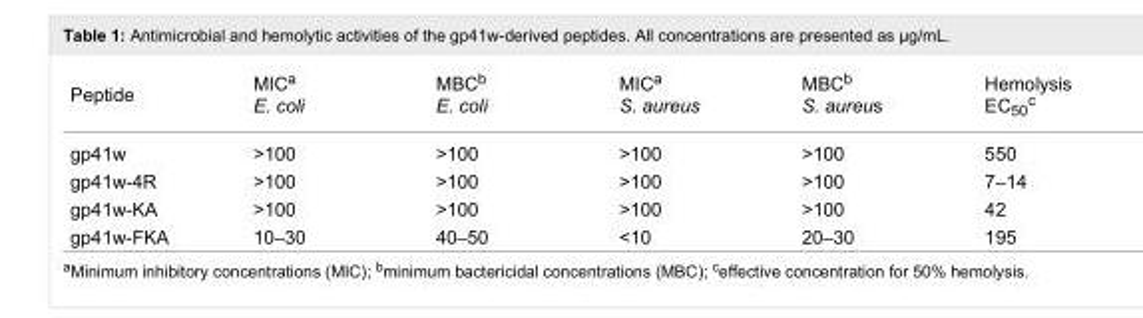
<table><tbody><tr><td>Peptide</td><td>MIC<sup>a</sup> E. coli</td><td>MBC<sup>b</sup> E. coli</td><td>MIC<sup>a</sup> S. aureus</td><td>MBC<sup>b</sup> S. aureus</td><td>Hemolysis EC<sub>50</sub><sup>c</sup></td></tr><tr><td>gp41w</td><td>&gt;100</td><td>&gt;100</td><td>&gt;100</td><td>&gt;100</td><td>550</td></tr><tr><td>gp41w-4R</td><td>&gt;100</td><td>&gt;100</td><td>&gt;100</td><td>&gt;100</td><td>7–14</td></tr><tr><td>gp41w-KA</td><td>&gt;100</td><td>&gt;100</td><td>&gt;100</td><td>&gt;100</td><td>42</td></tr><tr><td>gp41w-FKA</td><td>10–30</td><td>40–50</td><td>&lt;10</td><td>20–30</td><td>195</td></tr></tbody></table>